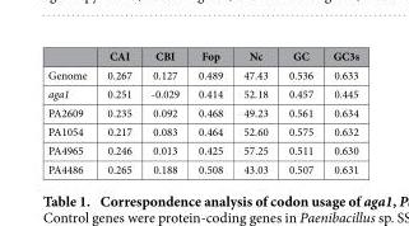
<table><thead><tr><td></td><td>CAI</td><td>CBI</td><td>Fop</td><td>Nc</td><td>GC</td><td>GC3s</td></tr></thead><tbody><tr><td>Genome</td><td>0.267</td><td>0.127</td><td>0.489</td><td>47.43</td><td>0.536</td><td>0.633</td></tr><tr><td>aga1</td><td>0.251</td><td>-0.029</td><td>0.414</td><td>52.18</td><td>0.457</td><td>0.445</td></tr><tr><td>PA2609</td><td>0.235</td><td>0.092</td><td>0.468</td><td>49.23</td><td>0.561</td><td>0.634</td></tr><tr><td>PA1054</td><td>0.217</td><td>0.083</td><td>0.464</td><td>52.60</td><td>0.575</td><td>0.632</td></tr><tr><td>PA4965</td><td>0.246</td><td>0.013</td><td>0.425</td><td>57.25</td><td>0.511</td><td>0.630</td></tr><tr><td>PA4486</td><td>0.265</td><td>0.188</td><td>0.508</td><td>43.03</td><td>0.507</td><td>0.631</td></tr></tbody></table>